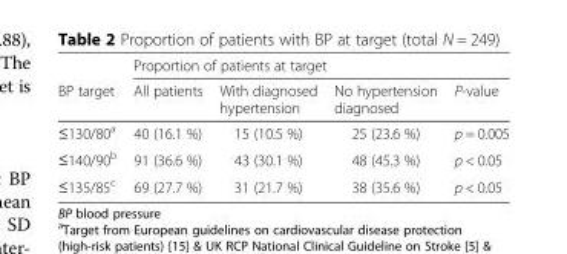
<table><thead><tr><td rowspan="2">BP target</td><td colspan="4">Proportion of patients at target</td></tr><tr><td>All patients</td><td>With diagnosed hypertension</td><td>No hypertension diagnosed</td><td>P-value</td></tr></thead><tbody><tr><td>≤130/80<sup>a</sup></td><td>40 (16.1 %)</td><td>15 (10.5 %)</td><td>25 (23.6 %)</td><td>p = 0.005</td></tr><tr><td>≤140/90<sup>b</sup></td><td>91 (36.6 %)</td><td>43 (30.1 %)</td><td>48 (45.3 %)</td><td>p &lt; 0.05</td></tr><tr><td>≤135/85<sup>c</sup></td><td>69 (27.7 %)</td><td>31 (21.7 %)</td><td>38 (35.6 %)</td><td>p &lt; 0.05</td></tr></tbody></table>